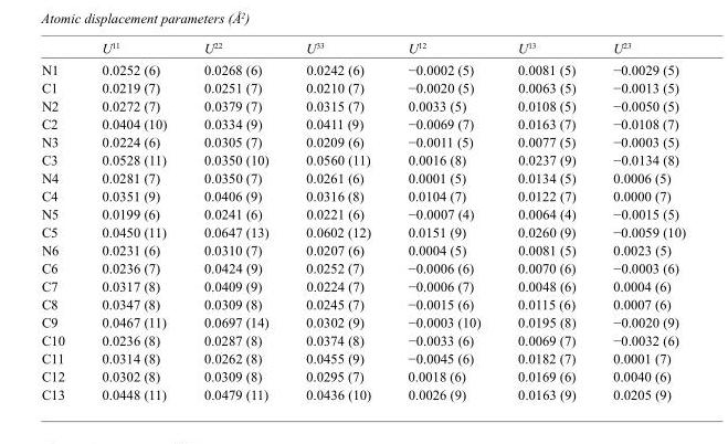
<table><thead><tr><td></td><td>U<sup>11</sup></td><td>U<sup>22</sup></td><td>U<sup>33</sup></td><td>U<sup>12</sup></td><td>U<sup>13</sup></td><td>U<sup>23</sup></td></tr></thead><tbody><tr><td>N1</td><td>0.0252 (6)</td><td>0.0268 (6)</td><td>0.0242 (6)</td><td>−0.0002 (5)</td><td>0.0081 (5)</td><td>−0.0029 (5)</td></tr><tr><td>C1</td><td>0.0219 (7)</td><td>0.0251 (7)</td><td>0.0210 (7)</td><td>−0.0020 (5)</td><td>0.0063 (5)</td><td>−0.0013 (5)</td></tr><tr><td>N2</td><td>0.0272 (7)</td><td>0.0379 (7)</td><td>0.0315 (7)</td><td>0.0033 (5)</td><td>0.0108 (5)</td><td>−0.0050 (5)</td></tr><tr><td>C2</td><td>0.0404 (10)</td><td>0.0334 (9)</td><td>0.0411 (9)</td><td>−0.0069 (7)</td><td>0.0163 (7)</td><td>−0.0108 (7)</td></tr><tr><td>N3</td><td>0.0224 (6)</td><td>0.0305 (7)</td><td>0.0209 (6)</td><td>−0.0011 (5)</td><td>0.0077 (5)</td><td>−0.0003 (5)</td></tr><tr><td>C3</td><td>0.0528 (11)</td><td>0.0350 (10)</td><td>0.0560 (11)</td><td>0.0016 (8)</td><td>0.0237 (9)</td><td>−0.0134 (8)</td></tr><tr><td>N4</td><td>0.0281 (7)</td><td>0.0350 (7)</td><td>0.0261 (6)</td><td>0.0001 (5)</td><td>0.0134 (5)</td><td>0.0006 (5)</td></tr><tr><td>C4</td><td>0.0351 (9)</td><td>0.0406 (9)</td><td>0.0316 (8)</td><td>0.0104 (7)</td><td>0.0122 (7)</td><td>0.0000 (7)</td></tr><tr><td>N5</td><td>0.0199 (6)</td><td>0.0241 (6)</td><td>0.0221 (6)</td><td>−0.0007 (4)</td><td>0.0064 (4)</td><td>−0.0015 (5)</td></tr><tr><td>C5</td><td>0.0450 (11)</td><td>0.0647 (13)</td><td>0.0602 (12)</td><td>0.0151 (9)</td><td>0.0260 (9)</td><td>−0.0059 (10)</td></tr><tr><td>N6</td><td>0.0231 (6)</td><td>0.0310 (7)</td><td>0.0207 (6)</td><td>0.0004 (5)</td><td>0.0081 (5)</td><td>0.0023 (5)</td></tr><tr><td>C6</td><td>0.0236 (7)</td><td>0.0424 (9)</td><td>0.0252 (7)</td><td>−0.0006 (6)</td><td>0.0070 (6)</td><td>−0.0003 (6)</td></tr><tr><td>C7</td><td>0.0317 (8)</td><td>0.0409 (9)</td><td>0.0224 (7)</td><td>−0.0006 (7)</td><td>0.0048 (6)</td><td>0.0004 (6)</td></tr><tr><td>C8</td><td>0.0347 (8)</td><td>0.0309 (8)</td><td>0.0245 (7)</td><td>−0.0015 (6)</td><td>0.0115 (6)</td><td>0.0007 (6)</td></tr><tr><td>C9</td><td>0.0467 (11)</td><td>0.0697 (14)</td><td>0.0302 (9)</td><td>−0.0003 (10)</td><td>0.0195 (8)</td><td>−0.0020 (9)</td></tr><tr><td>C10</td><td>0.0236 (8)</td><td>0.0287 (8)</td><td>0.0374 (8)</td><td>−0.0033 (6)</td><td>0.0069 (7)</td><td>−0.0032 (6)</td></tr><tr><td>C11</td><td>0.0314 (8)</td><td>0.0262 (8)</td><td>0.0455 (9)</td><td>−0.0045 (6)</td><td>0.0182 (7)</td><td>0.0001 (7)</td></tr><tr><td>C12</td><td>0.0302 (8)</td><td>0.0309 (8)</td><td>0.0295 (7)</td><td>0.0018 (6)</td><td>0.0169 (6)</td><td>0.0040 (6)</td></tr><tr><td>C13</td><td>0.0448 (11)</td><td>0.0479 (11)</td><td>0.0436 (10)</td><td>0.0026 (9)</td><td>0.0163 (9)</td><td>0.0205 (9)</td></tr></tbody></table>